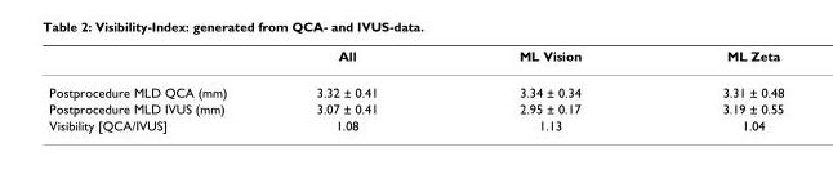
<table><thead><tr><td></td><td>All</td><td>ML Vision</td><td>ML Zeta</td></tr></thead><tbody><tr><td>Postprocedure MLD QCA (mm)</td><td>3.32 ± 0.41</td><td>3.34 ± 0.34</td><td>3.31 ± 0.48</td></tr><tr><td>Postprocedure MLD IVUS (mm)</td><td>3.07 ± 0.41</td><td>2.95 ± 0.17</td><td>3.19 ± 0.55</td></tr><tr><td>Visibility [QCA/IVUS]</td><td>1.08</td><td>1.13</td><td>1.04</td></tr></tbody></table>